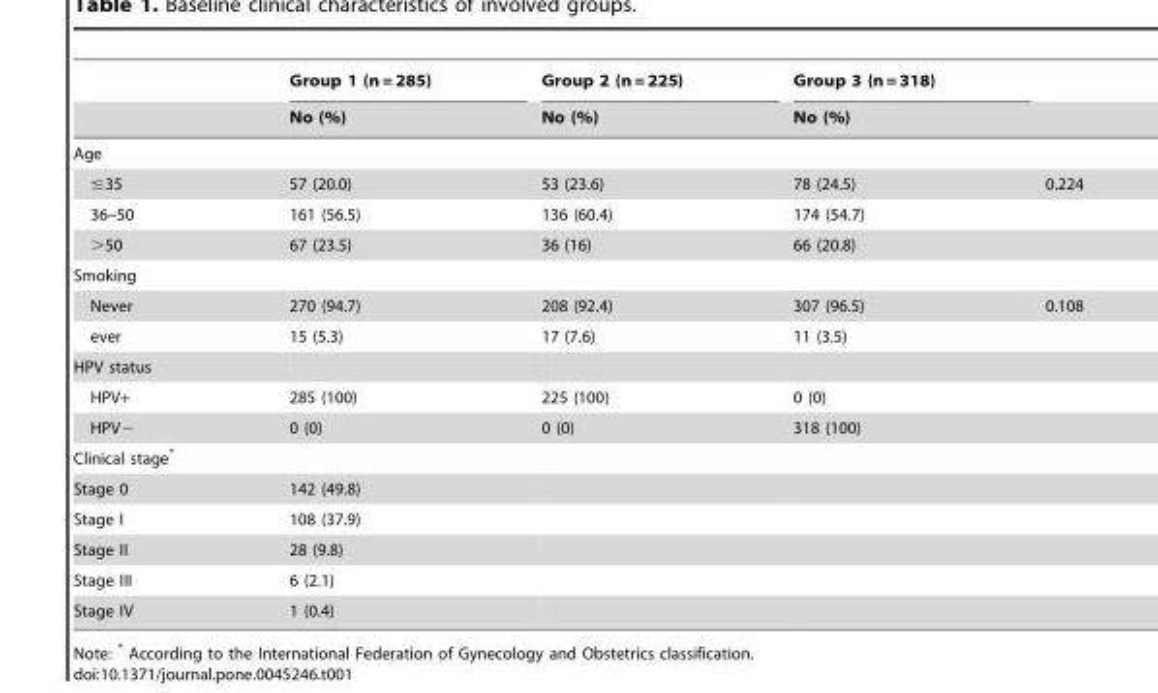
<table><thead><tr><td rowspan="2"></td><td rowspan="2">Group 1 (n = 285) No (%)</td><td rowspan="2">Group 2 (n = 225) No (%)</td><td rowspan="2">Group 3 (n = 318) No (%)</td><td rowspan="2"></td></tr><tr></tr></thead><tbody><tr><td colspan="5">Age</td></tr><tr><td>≤35</td><td>57 (20.0)</td><td>53 (23.6)</td><td>78 (24.5)</td><td>0.224</td></tr><tr><td>36–50</td><td>161 (56.5)</td><td>136 (60.4)</td><td>174 (54.7)</td><td></td></tr><tr><td>&gt;50</td><td>67 (23.5)</td><td>36 (16)</td><td>66 (20.8)</td><td></td></tr><tr><td colspan="5">Smoking</td></tr><tr><td>Never</td><td>270 (94.7)</td><td>208 (92.4)</td><td>307 (96.5)</td><td>0.108</td></tr><tr><td>ever</td><td>15 (5.3)</td><td>17 (7.6)</td><td>11 (3.5)</td><td></td></tr><tr><td colspan="5">HPV status</td></tr><tr><td>HPV+</td><td>285 (100)</td><td>225 (100)</td><td>0 (0)</td><td></td></tr><tr><td>HPV−</td><td>0 (0)</td><td>0 (0)</td><td>318 (100)</td><td></td></tr><tr><td colspan="5">Clinical stage*</td></tr><tr><td>Stage 0</td><td>142 (49.8)</td><td></td><td></td><td></td></tr><tr><td>Stage I</td><td>108 (37.9)</td><td></td><td></td><td></td></tr><tr><td>Stage II</td><td>28 (9.8)</td><td></td><td></td><td></td></tr><tr><td>Stage III</td><td>6 (2.1)</td><td></td><td></td><td></td></tr><tr><td>Stage IV</td><td>1 (0.4)</td><td></td><td></td><td></td></tr></tbody></table>